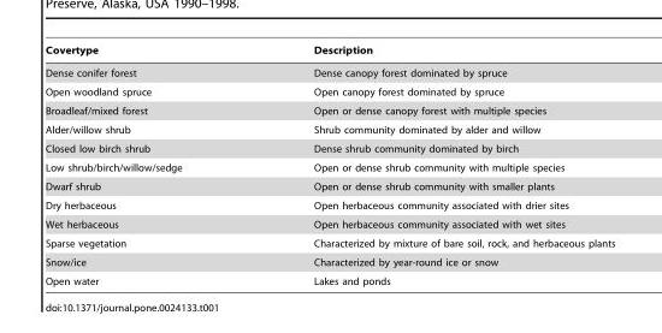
<table><thead><tr><td>Covertype</td><td>Description</td></tr></thead><tbody><tr><td>Dense conifer forest</td><td>Dense canopy forest dominated by spruce</td></tr><tr><td>Open woodland spruce</td><td>Open canopy forest dominated by spruce</td></tr><tr><td>Broadleaf/mixed forest</td><td>Open or dense canopy forest with multiple species</td></tr><tr><td>Alder/willow shrub</td><td>Shrub community dominated by alder and willow</td></tr><tr><td>Closed low birch shrub</td><td>Dense shrub community dominated by birch</td></tr><tr><td>Low shrub/birch/willow/sedge</td><td>Open or dense shrub community with multiple species</td></tr><tr><td>Dwarf shrub</td><td>Open or dense shrub community with smaller plants</td></tr><tr><td>Dry herbaceous</td><td>Open herbaceous community associated with drier sites</td></tr><tr><td>Wet herbaceous</td><td>Open herbaceous community associated with wet sites</td></tr><tr><td>Sparse vegetation</td><td>Characterized by mixture of bare soil, rock, and herbaceous plants</td></tr><tr><td>Snow/ice</td><td>Characterized by year-round ice or snow</td></tr><tr><td>Open water</td><td>Lakes and ponds</td></tr></tbody></table>